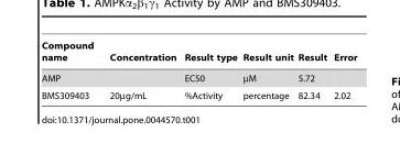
<table><thead><tr><td>Compound name</td><td>Concentration</td><td>Result type</td><td>Result unit</td><td>Result</td><td>Error</td></tr></thead><tbody><tr><td>AMP</td><td></td><td>EC50</td><td>µM</td><td>5.72</td><td></td></tr><tr><td>BMS309403</td><td>20µg/mL</td><td>%Activity</td><td>percentage</td><td>82.34</td><td>2.02</td></tr></tbody></table>